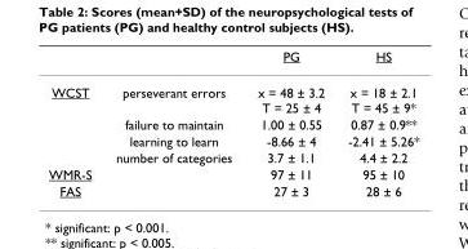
<table><thead><tr><td></td><td></td><td>PG</td><td>HS</td></tr></thead><tbody><tr><td rowspan="4">WCST</td><td>perseverant errors</td><td>x = 48 ± 3.2 T = 25 ± 4</td><td>x = 18 ± 2.1 T = 45 ± 9*</td></tr><tr><td>failure to maintain</td><td>1.00 ± 0.55</td><td>0.87 ± 0.9**</td></tr><tr><td>learning to learn</td><td>-8.66 ± 4</td><td>-2.41 ± 5.26*</td></tr><tr><td>number of categories</td><td>3.7 ± 1.1</td><td>4.4 ± 2.2</td></tr><tr><td>WMR-S</td><td></td><td>97 ± 11</td><td>95 ± 10</td></tr><tr><td>FAS</td><td></td><td>27 ± 3</td><td>28 ± 6</td></tr></tbody></table>